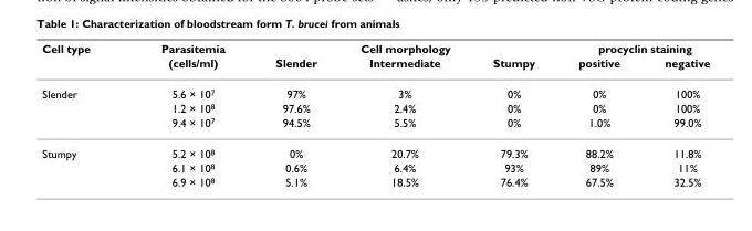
<table><thead><tr><td rowspan="2">Cell type</td><td rowspan="2">Parasitemia (cells/ml)</td><td colspan="3">Cell morphology</td><td colspan="2">procyclin staining</td></tr><tr><td>Slender</td><td>Intermediate</td><td>Stumpy</td><td>positive</td><td>negative</td></tr></thead><tbody><tr><td rowspan="3">Slender</td><td>5.6 × 10<sup>7</sup></td><td>97%</td><td>3%</td><td>0%</td><td>0%</td><td>100%</td></tr><tr><td>1.2 × 10<sup>8</sup></td><td>97.6%</td><td>2.4%</td><td>0%</td><td>0%</td><td>100%</td></tr><tr><td>9.4 × 10<sup>7</sup></td><td>94.5%</td><td>5.5%</td><td>0%</td><td>1.0%</td><td>99.0%</td></tr><tr><td rowspan="3">Stumpy</td><td>5.2 × 10<sup>8</sup></td><td>0%</td><td>20.7%</td><td>79.3%</td><td>88.2%</td><td>11.8%</td></tr><tr><td>6.1 × 10<sup>8</sup></td><td>0.6%</td><td>6.4%</td><td>93%</td><td>89%</td><td>11%</td></tr><tr><td>6.9 × 10<sup>8</sup></td><td>5.1%</td><td>18.5%</td><td>76.4%</td><td>67.5%</td><td>32.5%</td></tr></tbody></table>